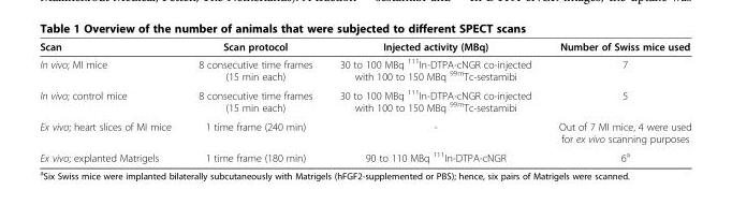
<table><thead><tr><td>Scan</td><td>Scan protocol</td><td>Injected activity (MBq)</td><td>Number of Swiss mice used</td></tr></thead><tbody><tr><td>In vivo; MI mice</td><td>8 consecutive time frames (15 min each)</td><td>30 to 100 MBq <sup>111</sup>In-DTPA-cNGR co-injected with 100 to 150 MBq <sup>99m</sup>Tc-sestamibi</td><td>7</td></tr><tr><td>In vivo; control mice</td><td>8 consecutive time frames (15 min each)</td><td>30 to 100 MBq <sup>111</sup>In-DTPA-cNGR co-injected with 100 to 150 MBq <sup>99m</sup>Tc-sestamibi</td><td>5</td></tr><tr><td>Ex vivo; heart slices of MI mice</td><td>1 time frame (240 min)</td><td>-</td><td>Out of 7 MI mice, 4 were used for ex vivo scanning purposes</td></tr><tr><td>Ex vivo; explanted Matrigels</td><td>1 time frame (180 min)</td><td>90 to 110 MBq <sup>111</sup>In-DTPA-cNGR</td><td>6<sup>a</sup></td></tr></tbody></table>